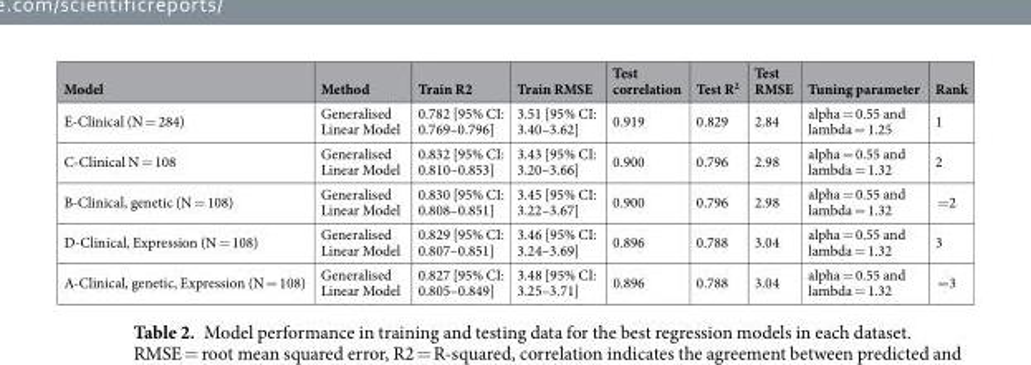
<table><thead><tr><td>Model</td><td>Method</td><td>Train R2</td><td>Train RMSE</td><td>Test correlation</td><td>Test R<sup>2</sup></td><td>Test RMSE</td><td>Tuning parameter</td><td>Rank</td></tr></thead><tbody><tr><td>E-Clinical (N = 284)</td><td>Generalised Linear Model</td><td>0.782 [95% CI: 0.769–0.796]</td><td>3.51 [95% CI: 3.40–3.62]</td><td>0.919</td><td>0.829</td><td>2.84</td><td>alpha = 0.55 and lambda = 1.25</td><td>1</td></tr><tr><td>C-Clinical N = 108</td><td>Generalised Linear Model</td><td>0.832 [95% CI: 0.810–0.853]</td><td>3.43 [95% CI: 3.20–3.66]</td><td>0.900</td><td>0.796</td><td>2.98</td><td>alpha = 0.55 and lambda = 1.32</td><td>2</td></tr><tr><td>B-Clinical, genetic (N = 108)</td><td>Generalised Linear Model</td><td>0.830 [95% CI: 0.808–0.851]</td><td>3.45 [95% CI: 3.22–3.67]</td><td>0.900</td><td>0.796</td><td>2.98</td><td>alpha = 0.55 and lambda = 1.32</td><td>=2</td></tr><tr><td>D-Clinical, Expression (N = 108)</td><td>Generalised Linear Model</td><td>0.829 [95% CI: 0.807–0.851]</td><td>3.46 [95% CI: 3.24–3.69]</td><td>0.896</td><td>0.788</td><td>3.04</td><td>alpha = 0.55 and lambda = 1.32</td><td>3</td></tr><tr><td>A-Clinical, genetic, Expression (N = 108)</td><td>Generalised Linear Model</td><td>0.827 [95% CI: 0.805–0.849]</td><td>3.48 [95% CI: 3.25–3.71]</td><td>0.896</td><td>0.788</td><td>3.04</td><td>alpha = 0.55 and lambda = 1.32</td><td>=3</td></tr></tbody></table>